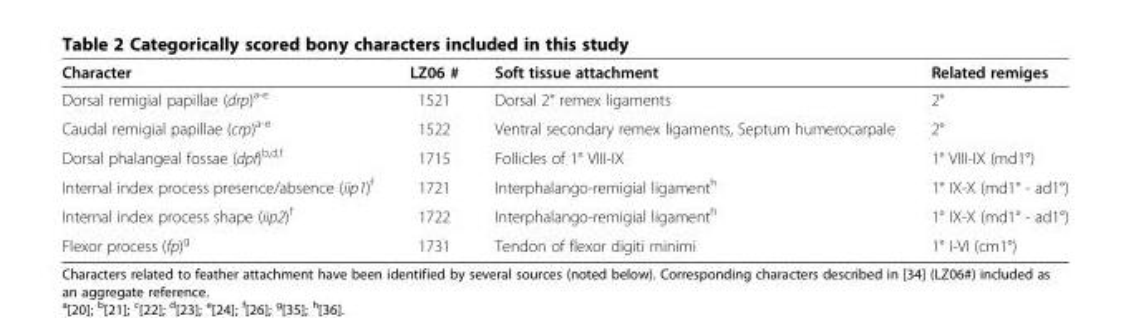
<table><thead><tr><td>Character</td><td>LZ06 #</td><td>Soft tissue attachment</td><td>Related remiges</td></tr></thead><tbody><tr><td>Dorsal remigial papillae (drp)<sup>a-e</sup></td><td>1521</td><td>Dorsal 2° remex ligaments</td><td>2°</td></tr><tr><td>Caudal remigial papillae (crp)<sup>a-e</sup></td><td>1522</td><td>Ventral secondary remex ligaments, Septum humerocarpale</td><td>2°</td></tr><tr><td>Dorsal phalangeal fossae (dpf)<sup>b,d,f</sup></td><td>1715</td><td>Follicles of 1° VIII-IX</td><td>1° VIII-IX (md1°)</td></tr><tr><td>Internal index process presence/absence (iip1)<sup>f</sup></td><td>1721</td><td>Interphalango-remigial ligament<sup>h</sup></td><td>1° IX-X (md1° - ad1°)</td></tr><tr><td>Internal index process shape (iip2)<sup>f</sup></td><td>1722</td><td>Interphalango-remigial ligament<sup>h</sup></td><td>1° IX-X (md1° - ad1°)</td></tr><tr><td>Flexor process (fp)<sup>g</sup></td><td>1731</td><td>Tendon of flexor digiti minimi</td><td>1° I-VI (cm1°)</td></tr></tbody></table>